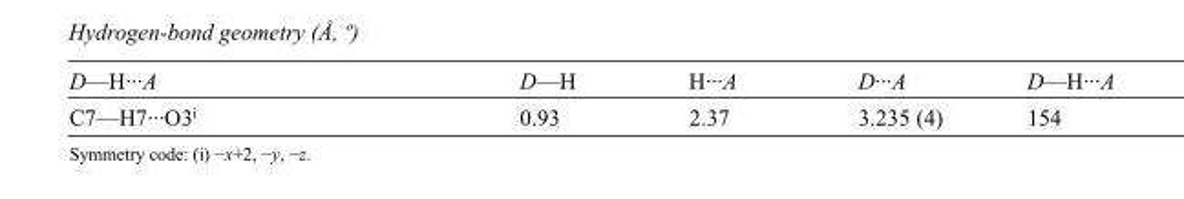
<table><tbody><tr><td>D—H···A</td><td>D—H</td><td>H···A</td><td>D···A</td><td>D—H···A</td></tr><tr><td>C7—H7···O3<sup>i</sup></td><td>0.93</td><td>2.37</td><td>3.235 (4)</td><td>154</td></tr></tbody></table>